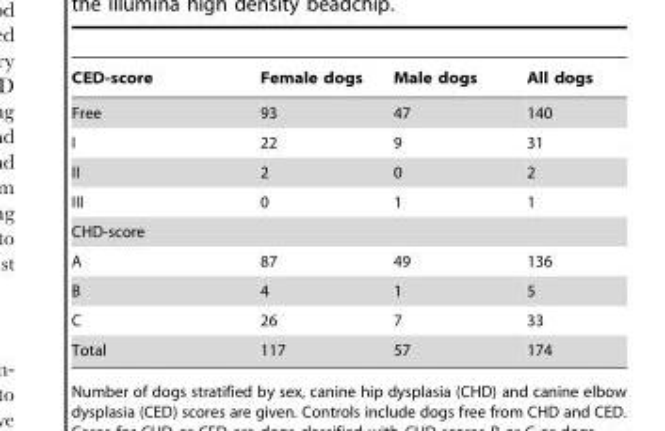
<table><thead><tr><td>CED-score</td><td>Female dogs</td><td>Male dogs</td><td>All dogs</td></tr></thead><tbody><tr><td>Free</td><td>93</td><td>47</td><td>140</td></tr><tr><td>I</td><td>22</td><td>9</td><td>31</td></tr><tr><td>II</td><td>2</td><td>0</td><td>2</td></tr><tr><td>III</td><td>0</td><td>1</td><td>1</td></tr><tr><td colspan="4">CHD-score</td></tr><tr><td>A</td><td>87</td><td>49</td><td>136</td></tr><tr><td>B</td><td>4</td><td>1</td><td>5</td></tr><tr><td>C</td><td>26</td><td>7</td><td>33</td></tr><tr><td>Total</td><td>117</td><td>57</td><td>174</td></tr></tbody></table>